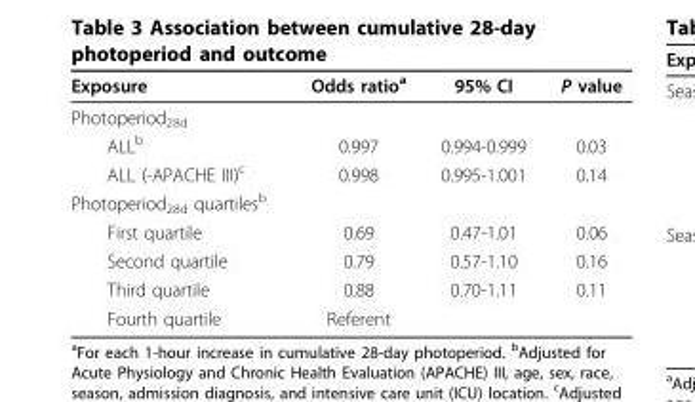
<table><thead><tr><td>Exposure</td><td>Odds ratio<sup>a</sup></td><td>95% CI</td><td>P value</td></tr></thead><tbody><tr><td colspan="4">Photoperiod<sub>28d</sub></td></tr><tr><td>ALL<sup>b</sup></td><td>0.997</td><td>0.994-0.999</td><td>0.03</td></tr><tr><td>ALL (-APACHE III)<sup>c</sup></td><td>0.998</td><td>0.995-1.001</td><td>0.14</td></tr><tr><td colspan="4">Photoperiod<sub>28d</sub> quartiles<sup>b</sup></td></tr><tr><td>First quartile</td><td>0.69</td><td>0.47-1.01</td><td>0.06</td></tr><tr><td>Second quartile</td><td>0.79</td><td>0.57-1.10</td><td>0.16</td></tr><tr><td>Third quartile</td><td>0.88</td><td>0.70-1.11</td><td>0.11</td></tr><tr><td>Fourth quartile</td><td>Referent</td><td></td><td></td></tr></tbody></table>